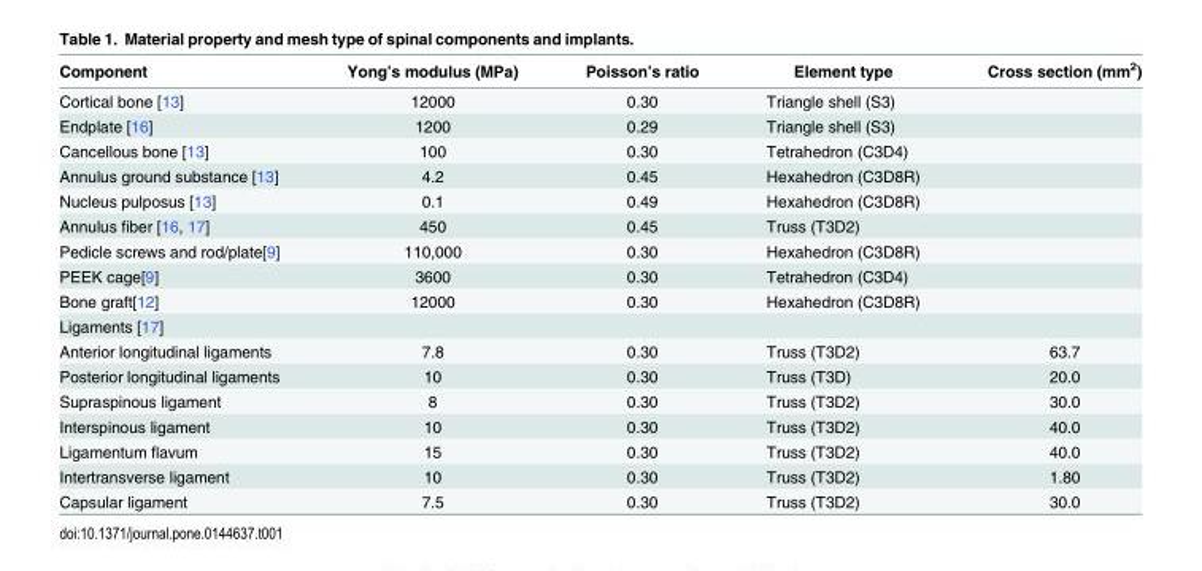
<table><thead><tr><td>Component</td><td>Yong’s modulus (MPa)</td><td>Poisson’s ratio</td><td>Element type</td><td>Cross section (mm<sup>2</sup>)</td></tr></thead><tbody><tr><td>Cortical bone [13]</td><td>12000</td><td>0.30</td><td>Triangle shell (S3)</td><td></td></tr><tr><td>Endplate [16]</td><td>1200</td><td>0.29</td><td>Triangle shell (S3)</td><td></td></tr><tr><td>Cancellous bone [13]</td><td>100</td><td>0.30</td><td>Tetrahedron (C3D4)</td><td></td></tr><tr><td>Annulus ground substance [13]</td><td>4.2</td><td>0.45</td><td>Hexahedron (C3D8R)</td><td></td></tr><tr><td>Nucleus pulposus [13]</td><td>0.1</td><td>0.49</td><td>Hexahedron (C3D8R)</td><td></td></tr><tr><td>Annulus fiber [16, 17]</td><td>450</td><td>0.45</td><td>Truss (T3D2)</td><td></td></tr><tr><td>Pedicle screws and rod/plate[9]</td><td>110,000</td><td>0.30</td><td>Hexahedron (C3D8R)</td><td></td></tr><tr><td>PEEK cage[9]</td><td>3600</td><td>0.30</td><td>Tetrahedron (C3D4)</td><td></td></tr><tr><td>Bone graft[12]</td><td>12000</td><td>0.30</td><td>Hexahedron (C3D8R)</td><td></td></tr><tr><td colspan="5">Ligaments [17]</td></tr><tr><td>Anterior longitudinal ligaments</td><td>7.8</td><td>0.30</td><td>Truss (T3D2)</td><td>63.7</td></tr><tr><td>Posterior longitudinal ligaments</td><td>10</td><td>0.30</td><td>Truss (T3D)</td><td>20.0</td></tr><tr><td>Supraspinous ligament</td><td>8</td><td>0.30</td><td>Truss (T3D2)</td><td>30.0</td></tr><tr><td>Interspinous ligament</td><td>10</td><td>0.30</td><td>Truss (T3D2)</td><td>40.0</td></tr><tr><td>Ligamentum flavum</td><td>15</td><td>0.30</td><td>Truss (T3D2)</td><td>40.0</td></tr><tr><td>Intertransverse ligament</td><td>10</td><td>0.30</td><td>Truss (T3D2)</td><td>1.80</td></tr><tr><td>Capsular ligament</td><td>7.5</td><td>0.30</td><td>Truss (T3D2)</td><td>30.0</td></tr></tbody></table>